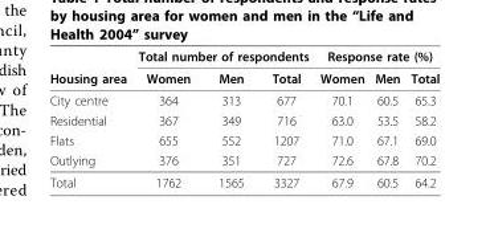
<table><thead><tr><td rowspan="2">Housing area</td><td colspan="3">Total number of respondents</td><td colspan="3">Response rate (%)</td></tr><tr><td>Women</td><td>Men</td><td>Total</td><td>Women</td><td>Men</td><td>Total</td></tr></thead><tbody><tr><td>City centre</td><td>364</td><td>313</td><td>677</td><td>70.1</td><td>60.5</td><td>65.3</td></tr><tr><td>Residential</td><td>367</td><td>349</td><td>716</td><td>63.0</td><td>53.5</td><td>58.2</td></tr><tr><td>Flats</td><td>655</td><td>552</td><td>1207</td><td>71.0</td><td>67.1</td><td>69.0</td></tr><tr><td>Outlying</td><td>376</td><td>351</td><td>727</td><td>72.6</td><td>67.8</td><td>70.2</td></tr><tr><td>Total</td><td>1762</td><td>1565</td><td>3327</td><td>67.9</td><td>60.5</td><td>64.2</td></tr></tbody></table>